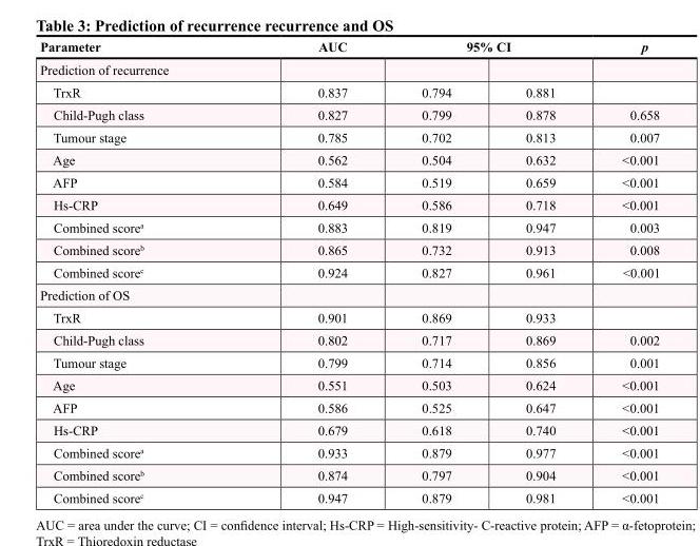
<table><thead><tr><td rowspan="2">Parameter Prediction of recurrence</td><td rowspan="2">AUC</td><td colspan="2">95% CI</td><td rowspan="2">p</td></tr><tr><td></td><td></td></tr></thead><tbody><tr><td>TrxR</td><td>0.837</td><td>0.794</td><td>0.881</td><td></td></tr><tr><td>Child-Pugh class</td><td>0.827</td><td>0.799</td><td>0.878</td><td>0.658</td></tr><tr><td>Tumour stage</td><td>0.785</td><td>0.702</td><td>0.813</td><td>0.007</td></tr><tr><td>Age</td><td>0.562</td><td>0.504</td><td>0.632</td><td>&lt;0.001</td></tr><tr><td>AFP</td><td>0.584</td><td>0.519</td><td>0.659</td><td>&lt;0.001</td></tr><tr><td>Hs-CRP</td><td>0.649</td><td>0.586</td><td>0.718</td><td>&lt;0.001</td></tr><tr><td>Combined score<sup>a</sup></td><td>0.883</td><td>0.819</td><td>0.947</td><td>0.003</td></tr><tr><td>Combined score<sup>b</sup></td><td>0.865</td><td>0.732</td><td>0.913</td><td>0.008</td></tr><tr><td>Combined score<sup>c</sup></td><td>0.924</td><td>0.827</td><td>0.961</td><td>&lt;0.001</td></tr><tr><td colspan="5">Prediction of OS</td></tr><tr><td>TrxR</td><td>0.901</td><td>0.869</td><td>0.933</td><td></td></tr><tr><td>Child-Pugh class</td><td>0.802</td><td>0.717</td><td>0.869</td><td>0.002</td></tr><tr><td>Tumour stage</td><td>0.799</td><td>0.714</td><td>0.856</td><td>0.001</td></tr><tr><td>Age</td><td>0.551</td><td>0.503</td><td>0.624</td><td>&lt;0.001</td></tr><tr><td>AFP</td><td>0.586</td><td>0.525</td><td>0.647</td><td>&lt;0.001</td></tr><tr><td>Hs-CRP</td><td>0.679</td><td>0.618</td><td>0.740</td><td>&lt;0.001</td></tr><tr><td>Combined score<sup>a</sup></td><td>0.933</td><td>0.879</td><td>0.977</td><td>&lt;0.001</td></tr><tr><td>Combined score<sup>b</sup></td><td>0.874</td><td>0.797</td><td>0.904</td><td>&lt;0.001</td></tr><tr><td>Combined score<sup>c</sup></td><td>0.947</td><td>0.879</td><td>0.981</td><td>&lt;0.001</td></tr></tbody></table>